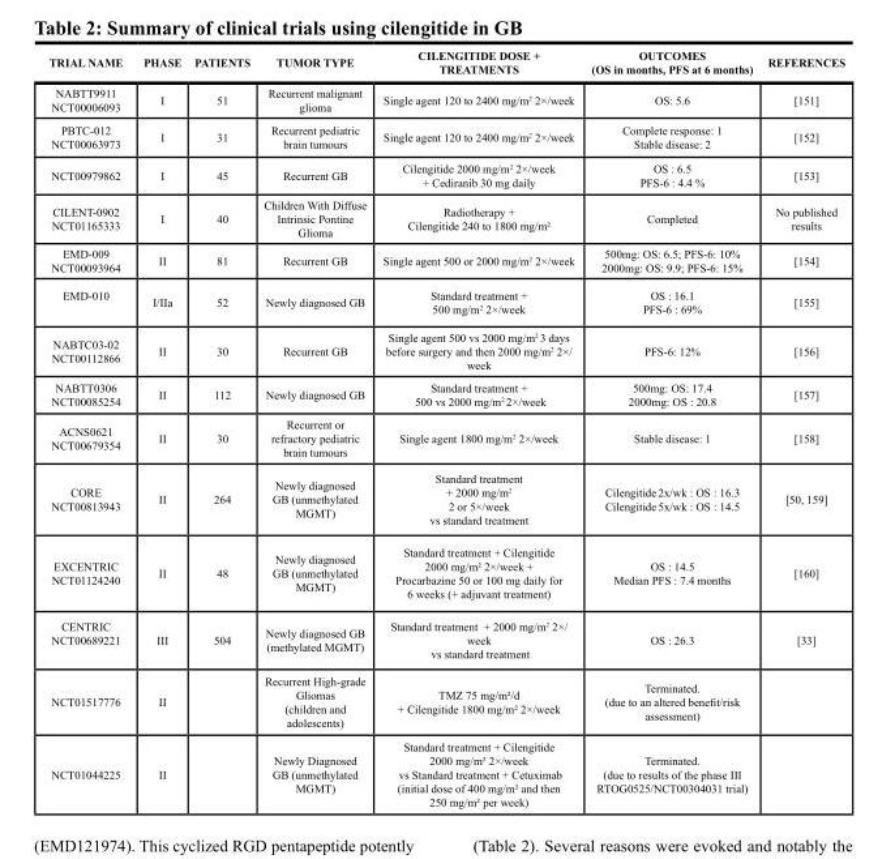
<table><thead><tr><td>TRIAL NAME</td><td>PHASE</td><td>PATIENTS</td><td>TUMOR TYPE</td><td>CILENGITIDE DOSE + TREATMENTS</td><td>OUTCOMES (OS in months, PFS at 6 months)</td><td>REFERENCES</td></tr></thead><tbody><tr><td>NABTT9911 NCT00006093</td><td>I</td><td>51</td><td>Recurrent malignant glioma</td><td>Single agent 120 to 2400 mg/m<sup>2</sup> 2×/week</td><td>OS: 5.6</td><td>[151]</td></tr><tr><td>PBTC-012 NCT00063973</td><td>I</td><td>31</td><td>Recurrent pediatric brain tumours</td><td>Single agent 120 to 2400 mg/m<sup>2</sup> 2×/week</td><td>Complete response: 1 Stable disease: 2</td><td>[152]</td></tr><tr><td>NCT00979862</td><td>I</td><td>45</td><td>Recurrent GB</td><td>Cilengitide 2000 mg/m<sup>2</sup> 2×/week + Cediranib 30 mg daily</td><td>OS : 6.5 PFS-6 : 4.4 %</td><td>[153]</td></tr><tr><td>CILENT-0902 NCT01165333</td><td>I</td><td>40</td><td>Children With Diffuse Intrinsic Pontine Glioma</td><td>Radiotherapy + Cilengitide 240 to 1800 mg/m²</td><td>Completed</td><td>No published results</td></tr><tr><td>EMD-009 NCT00093964</td><td>II</td><td>81</td><td>Recurrent GB</td><td>Single agent 500 or 2000 mg/m<sup>2</sup> 2×/week</td><td>500mg: OS: 6.5; PFS-6: 10% 2000mg: OS: 9.9; PFS-6: 15%</td><td>[154]</td></tr><tr><td>EMD-010</td><td>I/IIa</td><td>52</td><td>Newly diagnosed GB</td><td>Standard treatment + 500 mg/m<sup>2</sup> 2×/week</td><td>OS : 16.1 PFS-6 : 69%</td><td>[155]</td></tr><tr><td>NABTC03-02 NCT00112866</td><td>II</td><td>30</td><td>Recurrent GB</td><td>Single agent 500 vs 2000 mg/m<sup>2</sup> 3 days before surgery and then 2000 mg/m<sup>2</sup> 2×/ week</td><td>PFS-6: 12%</td><td>[156]</td></tr><tr><td>NABTT0306 NCT00085254</td><td>II</td><td>112</td><td>Newly diagnosed GB</td><td>Standard treatment + 500 vs 2000 mg/m<sup>2</sup> 2×/week</td><td>500mg: OS: 17.4 2000mg: OS : 20.8</td><td>[157]</td></tr><tr><td>ACNS0621 NCT00679354</td><td>II</td><td>30</td><td>Recurrent or refractory pediatric brain tumours</td><td>Single agent 1800 mg/m<sup>2</sup> 2×/week</td><td>Stable disease: 1</td><td>[158]</td></tr><tr><td>CORE NCT00813943</td><td>II</td><td>264</td><td>Newly diagnosed GB (unmethylated MGMT)</td><td>Standard treatment + 2000 mg/m<sup>2</sup> 2 or 5×/week vs standard treatment</td><td>Cilengitide 2x/wk : OS : 16.3 Cilengitide 5x/wk : OS : 14.5</td><td>[50, 159]</td></tr><tr><td>EXCENTRIC NCT01124240</td><td>II</td><td>48</td><td>Newly diagnosed GB (unmethylated MGMT)</td><td>Standard treatment + Cilengitide 2000 mg/m² 2×/week + Procarbazine 50 or 100 mg daily for 6 weeks (+ adjuvant treatment)</td><td>OS : 14.5 Median PFS : 7.4 months</td><td>[160]</td></tr><tr><td>CENTRIC NCT00689221</td><td>III</td><td>504</td><td>Newly diagnosed GB (methylated MGMT)</td><td>Standard treatment + 2000 mg/m<sup>2</sup> 2×/ week vs standard treatment</td><td>OS : 26.3</td><td>[33]</td></tr><tr><td>NCT01517776</td><td>II</td><td></td><td>Recurrent High-grade Gliomas (children and adolescents)</td><td>TMZ 75 mg/m²/d + Cilengitide 1800 mg/m² 2×/week</td><td>Terminated. (due to an altered benefit/risk assessment)</td><td></td></tr><tr><td>NCT01044225</td><td>II</td><td></td><td>Newly Diagnosed GB (unmethylated MGMT)</td><td>Standard treatment + Cilengitide 2000 mg/m² 2×/week vs Standard treatment + Cetuximab (initial dose of 400 mg/m² and then 250 mg/m² per week)</td><td>Terminated. (due to results of the phase III RTOG0525/NCT00304031 trial)</td><td></td></tr></tbody></table>